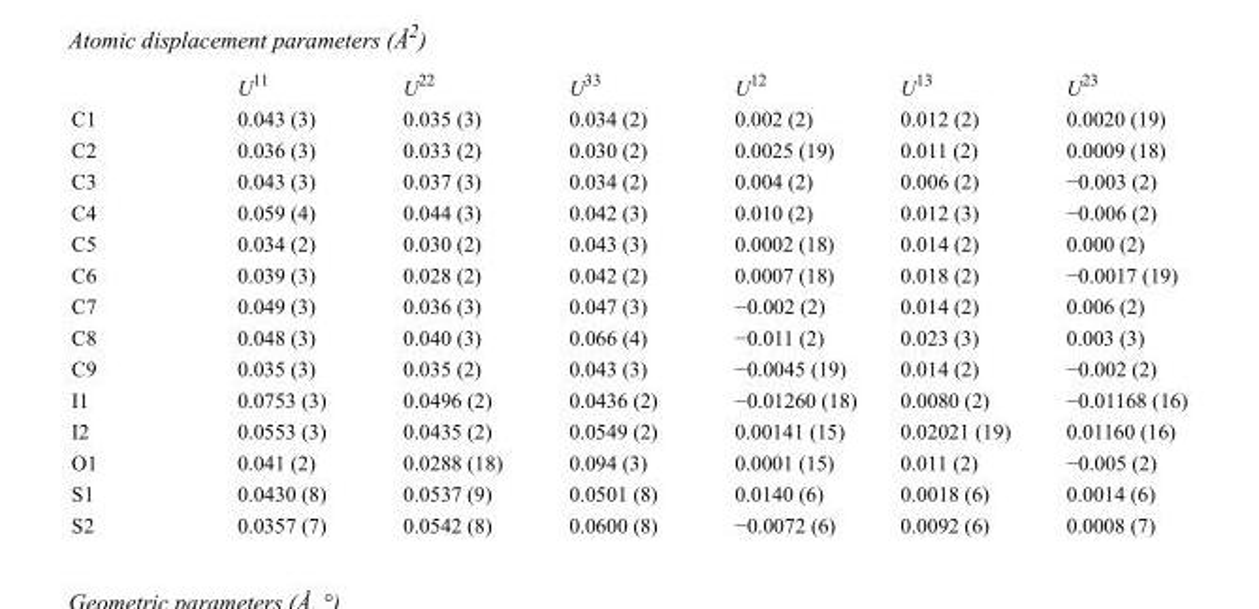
<table><thead><tr><td></td><td>U<sup>11</sup></td><td>U<sup>22</sup></td><td>U<sup>33</sup></td><td>U<sup>12</sup></td><td>U<sup>13</sup></td><td>U<sup>23</sup></td></tr></thead><tbody><tr><td>C1</td><td>0.043 (3)</td><td>0.035 (3)</td><td>0.034 (2)</td><td>0.002 (2)</td><td>0.012 (2)</td><td>0.0020 (19)</td></tr><tr><td>C2</td><td>0.036 (3)</td><td>0.033 (2)</td><td>0.030 (2)</td><td>0.0025 (19)</td><td>0.011 (2)</td><td>0.0009 (18)</td></tr><tr><td>C3</td><td>0.043 (3)</td><td>0.037 (3)</td><td>0.034 (2)</td><td>0.004 (2)</td><td>0.006 (2)</td><td>−0.003 (2)</td></tr><tr><td>C4</td><td>0.059 (4)</td><td>0.044 (3)</td><td>0.042 (3)</td><td>0.010 (2)</td><td>0.012 (3)</td><td>−0.006 (2)</td></tr><tr><td>C5</td><td>0.034 (2)</td><td>0.030 (2)</td><td>0.043 (3)</td><td>0.0002 (18)</td><td>0.014 (2)</td><td>0.000 (2)</td></tr><tr><td>C6</td><td>0.039 (3)</td><td>0.028 (2)</td><td>0.042 (2)</td><td>0.0007 (18)</td><td>0.018 (2)</td><td>−0.0017 (19)</td></tr><tr><td>C7</td><td>0.049 (3)</td><td>0.036 (3)</td><td>0.047 (3)</td><td>−0.002 (2)</td><td>0.014 (2)</td><td>0.006 (2)</td></tr><tr><td>C8</td><td>0.048 (3)</td><td>0.040 (3)</td><td>0.066 (4)</td><td>−0.011 (2)</td><td>0.023 (3)</td><td>0.003 (3)</td></tr><tr><td>C9</td><td>0.035 (3)</td><td>0.035 (2)</td><td>0.043 (3)</td><td>−0.0045 (19)</td><td>0.014 (2)</td><td>−0.002 (2)</td></tr><tr><td>I1</td><td>0.0753 (3)</td><td>0.0496 (2)</td><td>0.0436 (2)</td><td>−0.01260 (18)</td><td>0.0080 (2)</td><td>−0.01168 (16)</td></tr><tr><td>I2</td><td>0.0553 (3)</td><td>0.0435 (2)</td><td>0.0549 (2)</td><td>0.00141 (15)</td><td>0.02021 (19)</td><td>0.01160 (16)</td></tr><tr><td>O1</td><td>0.041 (2)</td><td>0.0288 (18)</td><td>0.094 (3)</td><td>0.0001 (15)</td><td>0.011 (2)</td><td>−0.005 (2)</td></tr><tr><td>S1</td><td>0.0430 (8)</td><td>0.0537 (9)</td><td>0.0501 (8)</td><td>0.0140 (6)</td><td>0.0018 (6)</td><td>0.0014 (6)</td></tr><tr><td>S2</td><td>0.0357 (7)</td><td>0.0542 (8)</td><td>0.0600 (8)</td><td>−0.0072 (6)</td><td>0.0092 (6)</td><td>0.0008 (7)</td></tr></tbody></table>